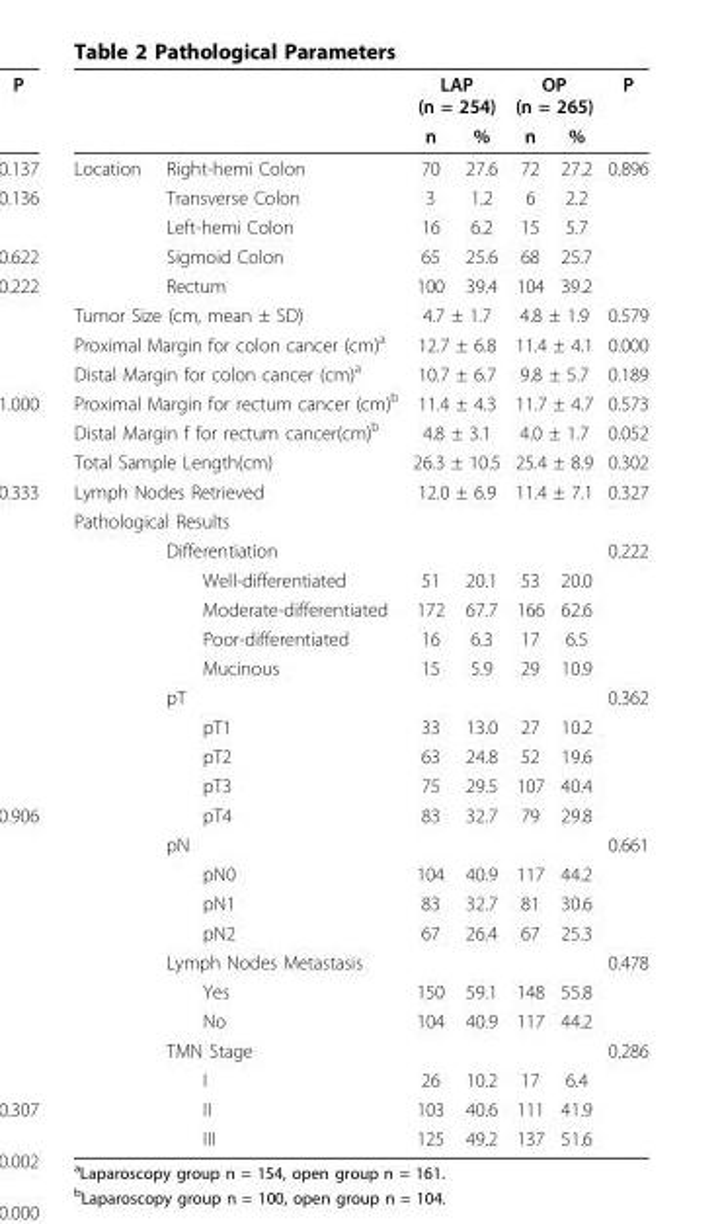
<table><thead><tr><td rowspan="2"></td><td rowspan="2"></td><td colspan="2">LAP (n = 254)</td><td colspan="2">OP (n = 265)</td><td rowspan="2">P</td></tr><tr><td>n</td><td>%</td><td>n</td><td>%</td></tr></thead><tbody><tr><td rowspan="5">Location</td><td>Right-hemi Colon</td><td>70</td><td>27.6</td><td>72</td><td>27.2</td><td>0.896</td></tr><tr><td>Transverse Colon</td><td>3</td><td>1.2</td><td>6</td><td>2.2</td><td></td></tr><tr><td>Left-hemi Colon</td><td>16</td><td>6.2</td><td>15</td><td>5.7</td><td></td></tr><tr><td>Sigmoid Colon</td><td>65</td><td>25.6</td><td>68</td><td>25.7</td><td></td></tr><tr><td>Rectum</td><td>100</td><td>39.4</td><td>104</td><td>39.2</td><td></td></tr><tr><td colspan="2">Tumor Size (cm, mean ± SD)</td><td colspan="2">4.7 ± 1.7</td><td colspan="2">4.8 ± 1.9</td><td>0.579</td></tr><tr><td colspan="2">Proximal Margin for colon cancer (cm)<sup>a</sup></td><td colspan="2">12.7 ± 6.8</td><td colspan="2">11.4 ± 4.1</td><td>0.000</td></tr><tr><td colspan="2">Distal Margin for colon cancer (cm)<sup>a</sup></td><td colspan="2">10.7 ± 6.7</td><td colspan="2">9.8 ± 5.7</td><td>0.189</td></tr><tr><td colspan="2">Proximal Margin for rectum cancer (cm)<sup>b</sup></td><td colspan="2">11.4 ± 4.3</td><td colspan="2">11.7 ± 4.7</td><td>0.573</td></tr><tr><td colspan="2">Distal Margin f for rectum cancer(cm)<sup>b</sup></td><td colspan="2">4.8 ± 3.1</td><td colspan="2">4.0 ± 1.7</td><td>0.052</td></tr><tr><td colspan="2">Total Sample Length(cm)</td><td colspan="2">26.3 ± 10.5</td><td colspan="2">25.4 ± 8.9</td><td>0.302</td></tr><tr><td colspan="2">Lymph Nodes Retrieved</td><td colspan="2">12.0 ± 6.9</td><td colspan="2">11.4 ± 7.1</td><td>0.327</td></tr><tr><td colspan="7">Pathological Results</td></tr><tr><td></td><td>Differentiation</td><td></td><td></td><td></td><td></td><td>0.222</td></tr><tr><td></td><td>Well-differentiated</td><td>51</td><td>20.1</td><td>53</td><td>20.0</td><td></td></tr><tr><td></td><td>Moderate-differentiated</td><td>172</td><td>67.7</td><td>166</td><td>62.6</td><td></td></tr><tr><td></td><td>Poor-differentiated</td><td>16</td><td>6.3</td><td>17</td><td>6.5</td><td></td></tr><tr><td></td><td>Mucinous</td><td>15</td><td>5.9</td><td>29</td><td>10.9</td><td></td></tr><tr><td></td><td>pT</td><td></td><td></td><td></td><td></td><td>0.362</td></tr><tr><td></td><td>pT1</td><td>33</td><td>13.0</td><td>27</td><td>10.2</td><td></td></tr><tr><td></td><td>pT2</td><td>63</td><td>24.8</td><td>52</td><td>19.6</td><td></td></tr><tr><td></td><td>pT3</td><td>75</td><td>29.5</td><td>107</td><td>40.4</td><td></td></tr><tr><td></td><td>pT4</td><td>83</td><td>32.7</td><td>79</td><td>29.8</td><td></td></tr><tr><td></td><td>pN</td><td></td><td></td><td></td><td></td><td>0.661</td></tr><tr><td></td><td>pN0</td><td>104</td><td>40.9</td><td>117</td><td>44.2</td><td></td></tr><tr><td></td><td>pN1</td><td>83</td><td>32.7</td><td>81</td><td>30.6</td><td></td></tr><tr><td></td><td>pN2</td><td>67</td><td>26.4</td><td>67</td><td>25.3</td><td></td></tr><tr><td></td><td>Lymph Nodes Metastasis</td><td></td><td></td><td></td><td></td><td>0.478</td></tr><tr><td></td><td>Yes</td><td>150</td><td>59.1</td><td>148</td><td>55.8</td><td></td></tr><tr><td></td><td>No</td><td>104</td><td>40.9</td><td>117</td><td>44.2</td><td></td></tr><tr><td></td><td>TMN Stage</td><td></td><td></td><td></td><td></td><td>0.286</td></tr><tr><td></td><td>I</td><td>26</td><td>10.2</td><td>17</td><td>6.4</td><td></td></tr><tr><td></td><td>II</td><td>103</td><td>40.6</td><td>111</td><td>41.9</td><td></td></tr><tr><td></td><td>III</td><td>125</td><td>49.2</td><td>137</td><td>51.6</td><td></td></tr></tbody></table>